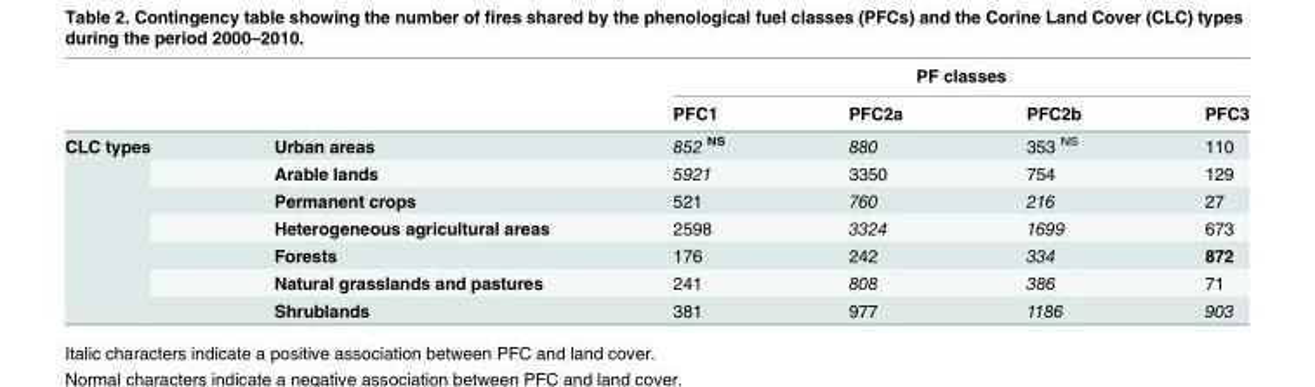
<table><thead><tr><td rowspan="2"></td><td rowspan="2"></td><td colspan="4">PF classes</td></tr><tr><td>PFC1</td><td>PFC2a</td><td>PFC2b</td><td>PFC3</td></tr></thead><tbody><tr><td rowspan="7">CLC types</td><td>Urban areas</td><td>852 <sup>NS</sup></td><td>880</td><td>353 <sup>NS</sup></td><td>110</td></tr><tr><td>Arable lands</td><td>5921</td><td>3350</td><td>754</td><td>129</td></tr><tr><td>Permanent crops</td><td>521</td><td>760</td><td>216</td><td>27</td></tr><tr><td>Heterogeneous agricultural areas</td><td>2598</td><td>3324</td><td>1699</td><td>673</td></tr><tr><td>Forests</td><td>176</td><td>242</td><td>334</td><td>872</td></tr><tr><td>Natural grasslands and pastures</td><td>241</td><td>808</td><td>386</td><td>71</td></tr><tr><td>Shrublands</td><td>381</td><td>977</td><td>1186</td><td>903</td></tr></tbody></table>